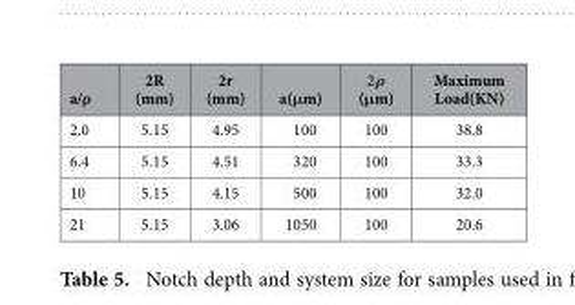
<table><thead><tr><td>a/ρ</td><td>2R (mm)</td><td>2r (mm)</td><td>a(μm)</td><td>ρ 2 (μm)</td><td>Maximum Load(KN)</td></tr></thead><tbody><tr><td>2.0</td><td>5.15</td><td>4.95</td><td>100</td><td>100</td><td>38.8</td></tr><tr><td>6.4</td><td>5.15</td><td>4.51</td><td>320</td><td>100</td><td>33.3</td></tr><tr><td>10</td><td>5.15</td><td>4.15</td><td>500</td><td>100</td><td>32.0</td></tr><tr><td>21</td><td>5.15</td><td>3.06</td><td>1050</td><td>100</td><td>20.6</td></tr></tbody></table>